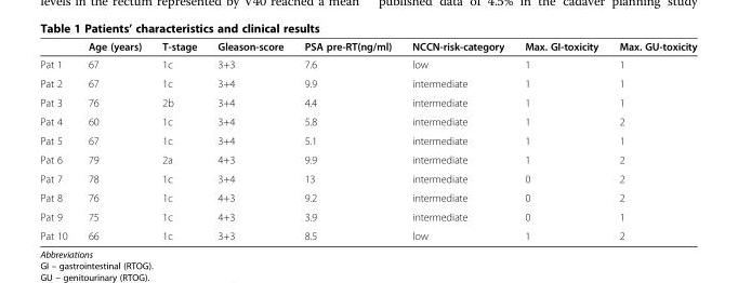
<table><thead><tr><td></td><td>Age (years)</td><td>T-stage</td><td>Gleason-score</td><td>PSA pre-RT(ng/ml)</td><td>NCCN-risk-category</td><td>Max. GI-toxicity</td><td>Max. GU-toxicity</td></tr></thead><tbody><tr><td>Pat 1</td><td>67</td><td>1c</td><td>3+3</td><td>7.6</td><td>low</td><td>1</td><td>1</td></tr><tr><td>Pat 2</td><td>67</td><td>1c</td><td>3+4</td><td>9.9</td><td>intermediate</td><td>1</td><td>1</td></tr><tr><td>Pat 3</td><td>76</td><td>2b</td><td>3+4</td><td>4.4</td><td>intermediate</td><td>1</td><td>1</td></tr><tr><td>Pat 4</td><td>60</td><td>1c</td><td>3+4</td><td>5.8</td><td>intermediate</td><td>1</td><td>2</td></tr><tr><td>Pat 5</td><td>67</td><td>1c</td><td>3+4</td><td>5.1</td><td>intermediate</td><td>1</td><td>1</td></tr><tr><td>Pat 6</td><td>79</td><td>2a</td><td>4+3</td><td>9.9</td><td>intermediate</td><td>1</td><td>2</td></tr><tr><td>Pat 7</td><td>78</td><td>1c</td><td>3+4</td><td>13</td><td>intermediate</td><td>0</td><td>2</td></tr><tr><td>Pat 8</td><td>76</td><td>1c</td><td>4+3</td><td>9.2</td><td>intermediate</td><td>0</td><td>2</td></tr><tr><td>Pat 9</td><td>75</td><td>1c</td><td>4+3</td><td>3.9</td><td>intermediate</td><td>0</td><td>1</td></tr><tr><td>Pat 10</td><td>66</td><td>1c</td><td>3+3</td><td>8.5</td><td>low</td><td>1</td><td>2</td></tr></tbody></table>